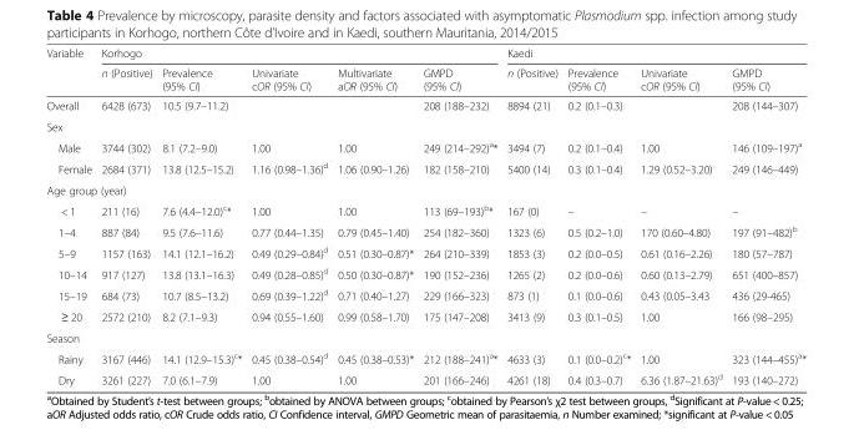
<table><thead><tr><td rowspan="2">Variable</td><td colspan="5">Korhogo</td><td colspan="4">Kaedi</td></tr><tr><td>n (Positive)</td><td>Prevalence (95% CI)</td><td>Univariate cOR (95% CI)</td><td>Multivariate aOR (95% CI)</td><td>GMPD (95% CI)</td><td>n (Positive)</td><td>Prevalence (95% CI)</td><td>Univariate cOR (95% CI)</td><td>GMPD (95% CI)</td></tr></thead><tbody><tr><td>Overall</td><td>6428 (673)</td><td>10.5 (9.7–11.2)</td><td></td><td></td><td>208 (188–232)</td><td>8894 (21)</td><td>0.2 (0.1–0.3)</td><td></td><td>208 (144–307)</td></tr><tr><td colspan="10">Sex</td></tr><tr><td>Male</td><td>3744 (302)</td><td>8.1 (7.2–9.0)</td><td>1.00</td><td>1.00</td><td>249 (214–292)<sup>a</sup>*</td><td>3494 (7)</td><td>0.2 (0.1–0.4)</td><td>1.00</td><td>146 (109–197)<sup>a</sup></td></tr><tr><td>Female</td><td>2684 (371)</td><td>13.8 (12.5–15.2)</td><td>1.16 (0.98–1.36)<sup>d</sup></td><td>1.06 (0.90–1.26)</td><td>182 (158–210)</td><td>5400 (14)</td><td>0.3 (0.1–0.4)</td><td>1.29 (0.52–3.20)</td><td>249 (146–449)</td></tr><tr><td colspan="10">Age group (year)</td></tr><tr><td>&lt; 1</td><td>211 (16)</td><td>7.6 (4.4–12.0)<sup>c</sup>*</td><td>1.00</td><td>1.00</td><td>113 (69–193)<sup>b</sup>*</td><td>167 (0)</td><td>–</td><td>–</td><td>–</td></tr><tr><td>1–4</td><td>887 (84)</td><td>9.5 (7.6–11.6)</td><td>0.77 (0.44–1.35)</td><td>0.79 (0.45–1.40)</td><td>254 (182–360)</td><td>1323 (6)</td><td>0.5 (0.2–1.0)</td><td>170 (0.60–4.80)</td><td>197 (91–482)<sup>b</sup></td></tr><tr><td>5–9</td><td>1157 (163)</td><td>14.1 (12.1–16.2)</td><td>0.49 (0.29–0.84)<sup>d</sup></td><td>0.51 (0.30–0.87)*</td><td>264 (210–339)</td><td>1853 (3)</td><td>0.2 (0.0–0.5)</td><td>0.61 (0.16–2.26)</td><td>180 (57–787)</td></tr><tr><td>10–14</td><td>917 (127)</td><td>13.8 (13.1–16.3)</td><td>0.49 (0.28–0.85)<sup>d</sup></td><td>0.50 (0.30–0.87)*</td><td>190 (152–236)</td><td>1265 (2)</td><td>0.2 (0.0–0.6)</td><td>0.60 (0.13–2.79)</td><td>651 (400–857)</td></tr><tr><td>15–19</td><td>684 (73)</td><td>10.7 (8.5–13.2)</td><td>0.69 (0.39–1.22)<sup>d</sup></td><td>0.71 (0.40–1.27)</td><td>229 (166–323)</td><td>873 (1)</td><td>0.1 (0.0–0.6)</td><td>0.43 (0.05–3.43</td><td>436 (29-465)</td></tr><tr><td>≥ 20</td><td>2572 (210)</td><td>8.2 (7.1–9.3)</td><td>0.94 (0.55–1.60)</td><td>0.99 (0.58–1.70)</td><td>175 (147–208)</td><td>3413 (9)</td><td>0.3 (0.1–0.5)</td><td>1.00</td><td>166 (98–295)</td></tr><tr><td colspan="10">Season</td></tr><tr><td>Rainy</td><td>3167 (446)</td><td>14.1 (12.9–15.3)<sup>c</sup>*</td><td>0.45 (0.38–0.54)<sup>d</sup></td><td>0.45 (0.38–0.53)*</td><td>212 (188–241)<sup>a</sup>*</td><td>4633 (3)</td><td>0.1 (0.0–0.2)<sup>c</sup>*</td><td>1.00</td><td>323 (144–455)<sup>a</sup>*</td></tr><tr><td>Dry</td><td>3261 (227)</td><td>7.0 (6.1–7.9)</td><td>1.00</td><td>1.00</td><td>201 (166–246)</td><td>4261 (18)</td><td>0.4 (0.3–0.7)</td><td>6.36 (1.87–21.63)<sup>d</sup></td><td>193 (140–272)</td></tr></tbody></table>